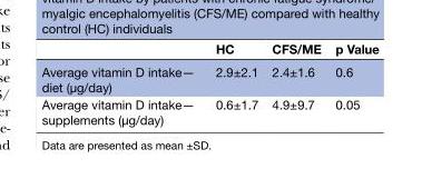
<table><thead><tr><td></td><td>HC</td><td>CFS/ME</td><td>p Value</td></tr></thead><tbody><tr><td>Average vitamin D intake— diet (µg/day)</td><td>2.9±2.1</td><td>2.4±1.6</td><td>0.6</td></tr><tr><td>Average vitamin D intake— supplements (µg/day)</td><td>0.6±1.7</td><td>4.9±9.7</td><td>0.05</td></tr></tbody></table>